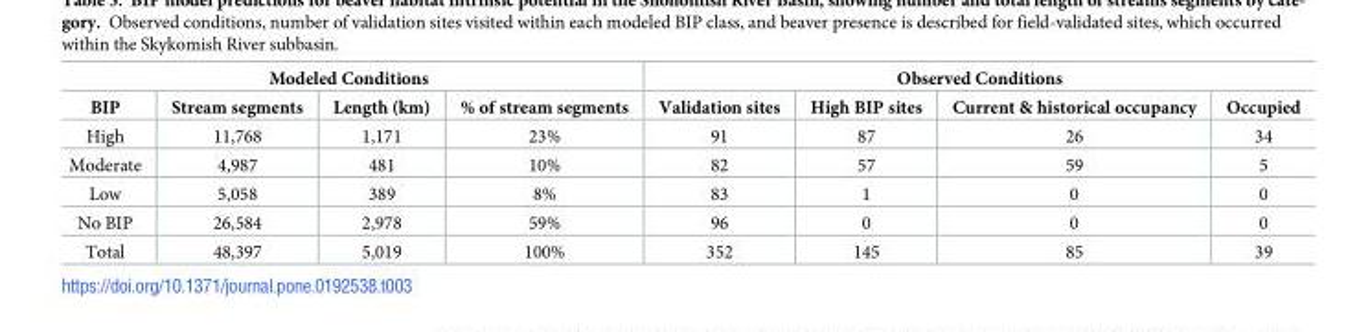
<table><thead><tr><td colspan="4">Modeled Conditions</td><td colspan="4">Observed Conditions</td></tr><tr><td>BIP</td><td>Stream segments</td><td>Length (km)</td><td>% of stream segments</td><td>Validation sites</td><td>High BIP sites</td><td>Current &amp; historical occupancy</td><td>Occupied</td></tr></thead><tbody><tr><td>High</td><td>11,768</td><td>1,171</td><td>23%</td><td>91</td><td>87</td><td>26</td><td>34</td></tr><tr><td>Moderate</td><td>4,987</td><td>481</td><td>10%</td><td>82</td><td>57</td><td>59</td><td>5</td></tr><tr><td>Low</td><td>5,058</td><td>389</td><td>8%</td><td>83</td><td>1</td><td>0</td><td>0</td></tr><tr><td>No BIP</td><td>26,584</td><td>2,978</td><td>59%</td><td>96</td><td>0</td><td>0</td><td>0</td></tr><tr><td>Total</td><td>48,397</td><td>5,019</td><td>100%</td><td>352</td><td>145</td><td>85</td><td>39</td></tr></tbody></table>